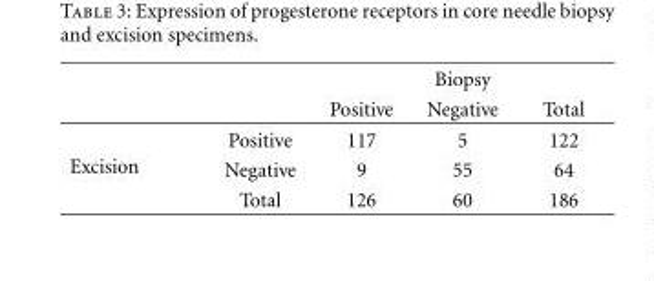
<table><thead><tr><td rowspan="2"></td><td rowspan="2"></td><td rowspan="2">Positive</td><td rowspan="2">Biopsy Negative</td><td rowspan="2">Total</td></tr><tr></tr></thead><tbody><tr><td rowspan="3">Excision</td><td>Positive</td><td>117</td><td>5</td><td>122</td></tr><tr><td>Negative</td><td>9</td><td>55</td><td>64</td></tr><tr><td>Total</td><td>126</td><td>60</td><td>186</td></tr></tbody></table>